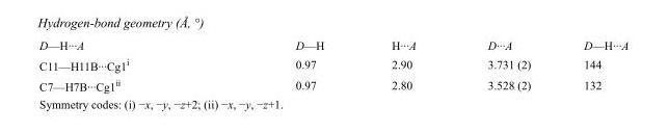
<table><tbody><tr><td>D—H···A</td><td>D—H</td><td>H···A</td><td>D···A</td><td>D—H···A</td></tr><tr><td>C11—H11B···Cg1<sup>i</sup></td><td>0.97</td><td>2.90</td><td>3.731 (2)</td><td>144</td></tr><tr><td>C7—H7B···Cg1<sup>ii</sup></td><td>0.97</td><td>2.80</td><td>3.528 (2)</td><td>132</td></tr></tbody></table>